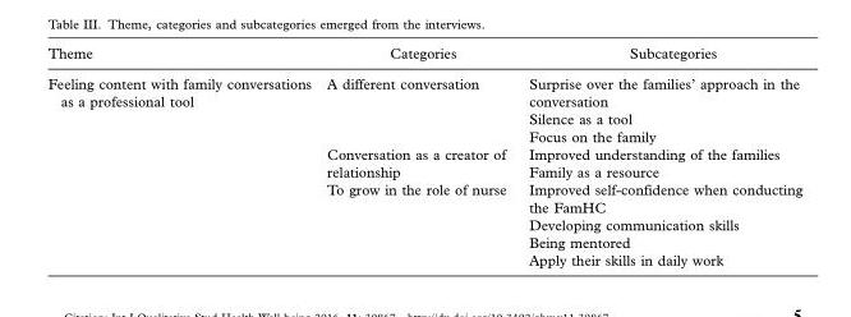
<table><thead><tr><td>Theme</td><td>Categories</td><td>Subcategories</td></tr></thead><tbody><tr><td rowspan="3">Feeling content with family conversations as a professional tool</td><td>A different conversation</td><td>Surprise over the families’ approach in the conversation Silence as a tool Focus on the family</td></tr><tr><td>Conversation as a creator of relationship</td><td>Improved understanding of the families Family as a resource</td></tr><tr><td>To grow in the role of nurse</td><td>Improved self-confidence when conducting the FamHC Developing communication skills Being mentored Apply their skills in daily work</td></tr></tbody></table>